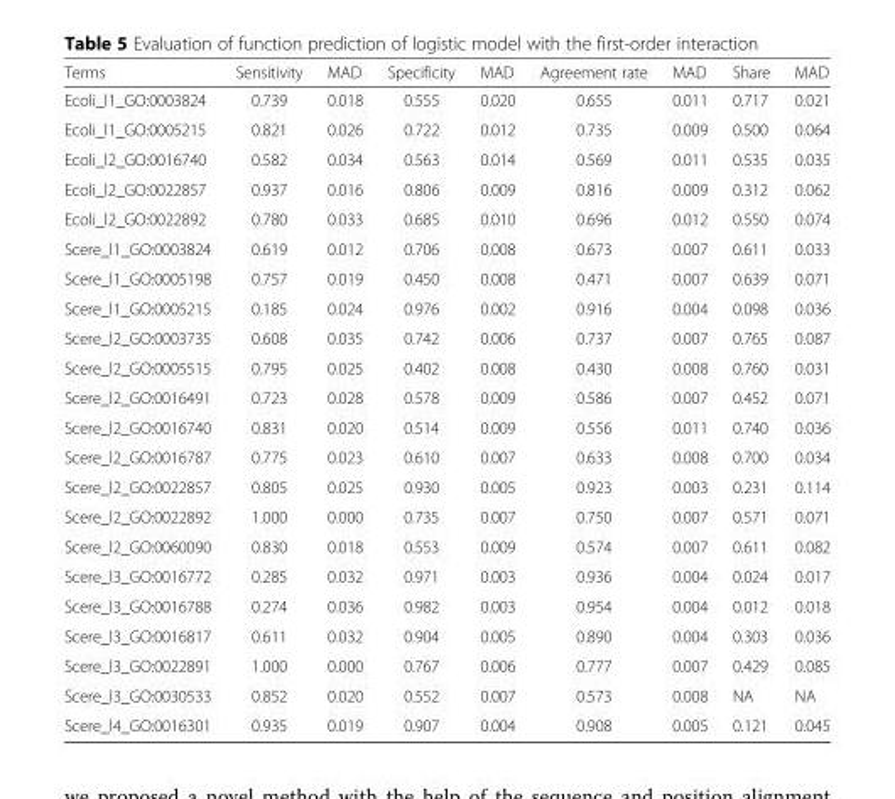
<table><thead><tr><td>Terms</td><td>Sensitivity</td><td>MAD</td><td>Specificity</td><td>MAD</td><td>Agreement rate</td><td>MAD</td><td>Share</td><td>MAD</td></tr></thead><tbody><tr><td>Ecoli_l1_GO:0003824</td><td>0.739</td><td>0.018</td><td>0.555</td><td>0.020</td><td>0.655</td><td>0.011</td><td>0.717</td><td>0.021</td></tr><tr><td>Ecoli_l1_GO:0005215</td><td>0.821</td><td>0.026</td><td>0.722</td><td>0.012</td><td>0.735</td><td>0.009</td><td>0.500</td><td>0.064</td></tr><tr><td>Ecoli_l2_GO:0016740</td><td>0.582</td><td>0.034</td><td>0.563</td><td>0.014</td><td>0.569</td><td>0.011</td><td>0.535</td><td>0.035</td></tr><tr><td>Ecoli_l2_GO:0022857</td><td>0.937</td><td>0.016</td><td>0.806</td><td>0.009</td><td>0.816</td><td>0.009</td><td>0.312</td><td>0.062</td></tr><tr><td>Ecoli_l2_GO:0022892</td><td>0.780</td><td>0.033</td><td>0.685</td><td>0.010</td><td>0.696</td><td>0.012</td><td>0.550</td><td>0.074</td></tr><tr><td>Scere_l1_GO:0003824</td><td>0.619</td><td>0.012</td><td>0.706</td><td>0.008</td><td>0.673</td><td>0.007</td><td>0.611</td><td>0.033</td></tr><tr><td>Scere_l1_GO:0005198</td><td>0.757</td><td>0.019</td><td>0.450</td><td>0.008</td><td>0.471</td><td>0.007</td><td>0.639</td><td>0.071</td></tr><tr><td>Scere_l1_GO:0005215</td><td>0.185</td><td>0.024</td><td>0.976</td><td>0.002</td><td>0.916</td><td>0.004</td><td>0.098</td><td>0.036</td></tr><tr><td>Scere_l2_GO:0003735</td><td>0.608</td><td>0.035</td><td>0.742</td><td>0.006</td><td>0.737</td><td>0.007</td><td>0.765</td><td>0.087</td></tr><tr><td>Scere_l2_GO:0005515</td><td>0.795</td><td>0.025</td><td>0.402</td><td>0.008</td><td>0.430</td><td>0.008</td><td>0.760</td><td>0.031</td></tr><tr><td>Scere_l2_GO:0016491</td><td>0.723</td><td>0.028</td><td>0.578</td><td>0.009</td><td>0.586</td><td>0.007</td><td>0.452</td><td>0.071</td></tr><tr><td>Scere_l2_GO:0016740</td><td>0.831</td><td>0.020</td><td>0.514</td><td>0.009</td><td>0.556</td><td>0.011</td><td>0.740</td><td>0.036</td></tr><tr><td>Scere_l2_GO:0016787</td><td>0.775</td><td>0.023</td><td>0.610</td><td>0.007</td><td>0.633</td><td>0.008</td><td>0.700</td><td>0.034</td></tr><tr><td>Scere_l2_GO:0022857</td><td>0.805</td><td>0.025</td><td>0.930</td><td>0.005</td><td>0.923</td><td>0.003</td><td>0.231</td><td>0.114</td></tr><tr><td>Scere_l2_GO:0022892</td><td>1.000</td><td>0.000</td><td>0.735</td><td>0.007</td><td>0.750</td><td>0.007</td><td>0.571</td><td>0.071</td></tr><tr><td>Scere_l2_GO:0060090</td><td>0.830</td><td>0.018</td><td>0.553</td><td>0.009</td><td>0.574</td><td>0.007</td><td>0.611</td><td>0.082</td></tr><tr><td>Scere_l3_GO:0016772</td><td>0.285</td><td>0.032</td><td>0.971</td><td>0.003</td><td>0.936</td><td>0.004</td><td>0.024</td><td>0.017</td></tr><tr><td>Scere_l3_GO:0016788</td><td>0.274</td><td>0.036</td><td>0.982</td><td>0.003</td><td>0.954</td><td>0.004</td><td>0.012</td><td>0.018</td></tr><tr><td>Scere_l3_GO:0016817</td><td>0.611</td><td>0.032</td><td>0.904</td><td>0.005</td><td>0.890</td><td>0.004</td><td>0.303</td><td>0.036</td></tr><tr><td>Scere_l3_GO:0022891</td><td>1.000</td><td>0.000</td><td>0.767</td><td>0.006</td><td>0.777</td><td>0.007</td><td>0.429</td><td>0.085</td></tr><tr><td>Scere_l3_GO:0030533</td><td>0.852</td><td>0.020</td><td>0.552</td><td>0.007</td><td>0.573</td><td>0.008</td><td>NA</td><td>NA</td></tr><tr><td>Scere_l4_GO:0016301</td><td>0.935</td><td>0.019</td><td>0.907</td><td>0.004</td><td>0.908</td><td>0.005</td><td>0.121</td><td>0.045</td></tr></tbody></table>